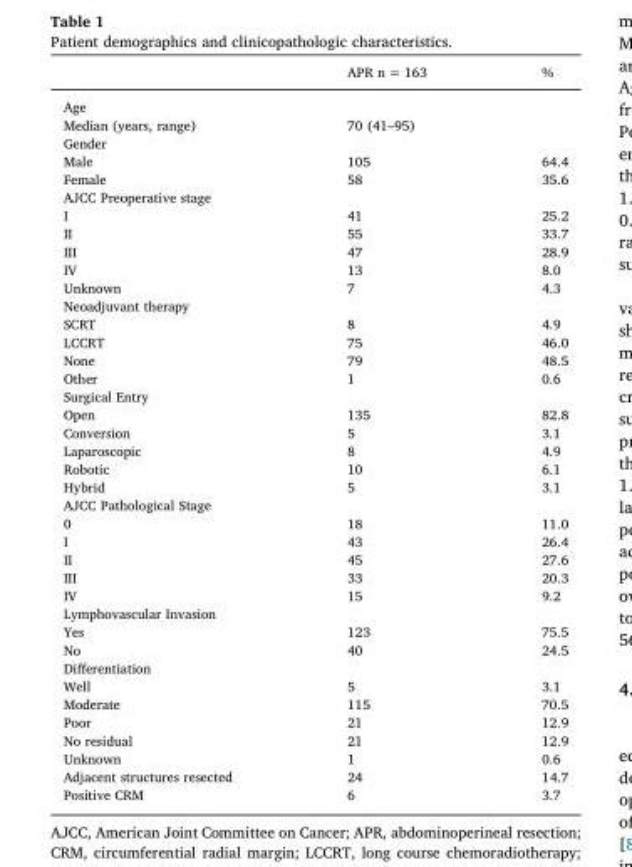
<table><thead><tr><td></td><td>APR n = 163</td><td>%</td></tr></thead><tbody><tr><td colspan="3">Age</td></tr><tr><td>Median (years, range)</td><td>70 (41–95)</td><td></td></tr><tr><td colspan="3">Gender</td></tr><tr><td>Male</td><td>105</td><td>64.4</td></tr><tr><td>Female</td><td>58</td><td>35.6</td></tr><tr><td colspan="3">AJCC Preoperative stage</td></tr><tr><td>I</td><td>41</td><td>25.2</td></tr><tr><td>II</td><td>55</td><td>33.7</td></tr><tr><td>III</td><td>47</td><td>28.9</td></tr><tr><td>IV</td><td>13</td><td>8.0</td></tr><tr><td>Unknown</td><td>7</td><td>4.3</td></tr><tr><td colspan="3">Neoadjuvant therapy</td></tr><tr><td>SCRT</td><td>8</td><td>4.9</td></tr><tr><td>LCCRT</td><td>75</td><td>46.0</td></tr><tr><td>None</td><td>79</td><td>48.5</td></tr><tr><td>Other</td><td>1</td><td>0.6</td></tr><tr><td colspan="3">Surgical Entry</td></tr><tr><td>Open</td><td>135</td><td>82.8</td></tr><tr><td>Conversion</td><td>5</td><td>3.1</td></tr><tr><td>Laparoscopic</td><td>8</td><td>4.9</td></tr><tr><td>Robotic</td><td>10</td><td>6.1</td></tr><tr><td>Hybrid</td><td>5</td><td>3.1</td></tr><tr><td colspan="3">AJCC Pathological Stage</td></tr><tr><td>0</td><td>18</td><td>11.0</td></tr><tr><td>I</td><td>43</td><td>26.4</td></tr><tr><td>II</td><td>45</td><td>27.6</td></tr><tr><td>III</td><td>33</td><td>20.3</td></tr><tr><td>IV</td><td>15</td><td>9.2</td></tr><tr><td colspan="3">Lymphovascular Invasion</td></tr><tr><td>Yes</td><td>123</td><td>75.5</td></tr><tr><td>No</td><td>40</td><td>24.5</td></tr><tr><td colspan="3">Differentiation</td></tr><tr><td>Well</td><td>5</td><td>3.1</td></tr><tr><td>Moderate</td><td>115</td><td>70.5</td></tr><tr><td>Poor</td><td>21</td><td>12.9</td></tr><tr><td>No residual</td><td>21</td><td>12.9</td></tr><tr><td>Unknown</td><td>1</td><td>0.6</td></tr><tr><td>Adjacent structures resected</td><td>24</td><td>14.7</td></tr><tr><td>Positive CRM</td><td>6</td><td>3.7</td></tr></tbody></table>